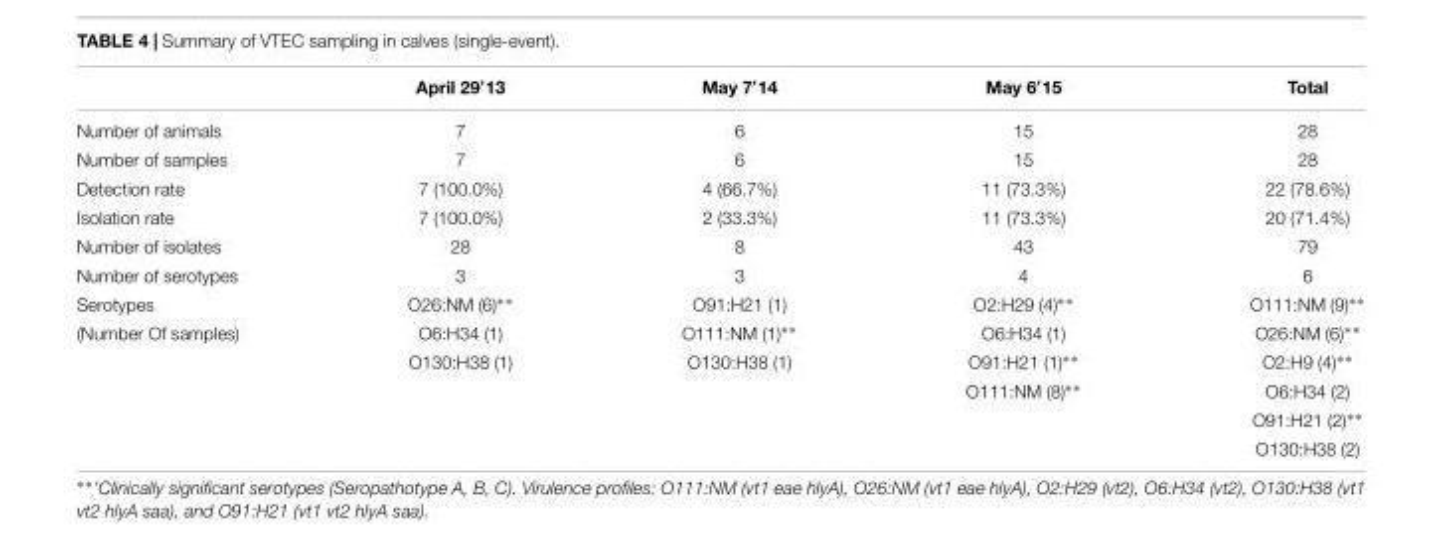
<table><thead><tr><td></td><td>April 29′13</td><td>May 7′14</td><td>May 6′15</td><td>Total</td></tr></thead><tbody><tr><td>Number of animals</td><td>7</td><td>6</td><td>15</td><td>28</td></tr><tr><td>Number of samples</td><td>7</td><td>6</td><td>15</td><td>28</td></tr><tr><td>Detection rate</td><td>7 (100.0%)</td><td>4 (66.7%)</td><td>11 (73.3%)</td><td>22 (78.6%)</td></tr><tr><td>Isolation rate</td><td>7 (100.0%)</td><td>2 (33.3%)</td><td>11 (73.3%)</td><td>20 (71.4%)</td></tr><tr><td>Number of isolates</td><td>28</td><td>8</td><td>43</td><td>79</td></tr><tr><td>Number of serotypes</td><td>3</td><td>3</td><td>4</td><td>6</td></tr><tr><td>Serotypes</td><td>O26:NM (6)∗∗</td><td>O91:H21 (1)</td><td>O2:H29 (4)∗∗</td><td>O111:NM (9)∗∗</td></tr><tr><td rowspan="5">(Number Of samples)</td><td>O6:H34 (1)</td><td>O111:NM (1)∗∗</td><td>O6:H34 (1)</td><td>O26:NM (6)∗∗</td></tr><tr><td>O130:H38 (1)</td><td>O130:H38 (1)</td><td>O91:H21 (1)∗∗</td><td>O2:H9 (4)∗∗</td></tr><tr><td></td><td></td><td>O111:NM (8)∗∗</td><td>O6:H34 (2)</td></tr><tr><td></td><td></td><td></td><td>O91:H21 (2)∗∗</td></tr><tr><td></td><td></td><td></td><td>O130:H38 (2)</td></tr></tbody></table>